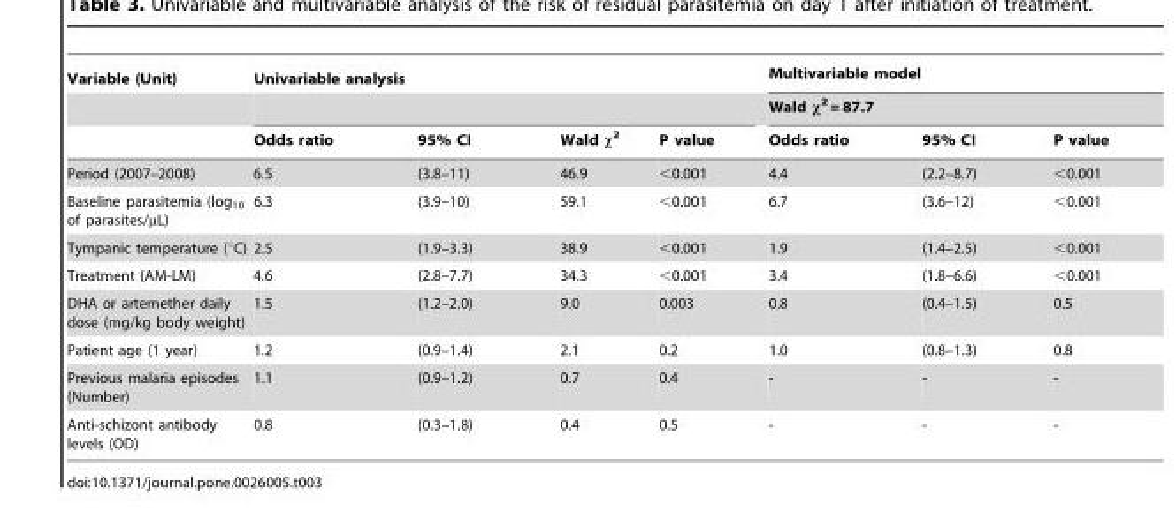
<table><thead><tr><td rowspan="3">Variable (Unit)</td><td colspan="4">Univariable analysis</td><td rowspan="2" colspan="3">Multivariable model Wald χ<sup>2</sup> = 87.7</td></tr><tr><td rowspan="2">Odds ratio</td><td rowspan="2">95% CI</td><td rowspan="2">Wald χ<sup>2</sup></td><td rowspan="2">P value</td></tr><tr><td>Odds ratio</td><td>95% CI</td><td>P value</td></tr></thead><tbody><tr><td>Period (2007–2008)</td><td>6.5</td><td>(3.8–11)</td><td>46.9</td><td>&lt;0.001</td><td>4.4</td><td>(2.2–8.7)</td><td>&lt;0.001</td></tr><tr><td>Baseline parasitemia (log<sub>10</sub> of parasites/µL)</td><td>6.3</td><td>(3.9–10)</td><td>59.1</td><td>&lt;0.001</td><td>6.7</td><td>(3.6–12)</td><td>&lt;0.001</td></tr><tr><td>Tympanic temperature (°C)</td><td>2.5</td><td>(1.9–3.3)</td><td>38.9</td><td>&lt;0.001</td><td>1.9</td><td>(1.4–2.5)</td><td>&lt;0.001</td></tr><tr><td>Treatment (AM-LM)</td><td>4.6</td><td>(2.8–7.7)</td><td>34.3</td><td>&lt;0.001</td><td>3.4</td><td>(1.8–6.6)</td><td>&lt;0.001</td></tr><tr><td>DHA or artemether daily dose (mg/kg body weight)</td><td>1.5</td><td>(1.2–2.0)</td><td>9.0</td><td>0.003</td><td>0.8</td><td>(0.4–1.5)</td><td>0.5</td></tr><tr><td>Patient age (1 year)</td><td>1.2</td><td>(0.9–1.4)</td><td>2.1</td><td>0.2</td><td>1.0</td><td>(0.8–1.3)</td><td>0.8</td></tr><tr><td>Previous malaria episodes (Number)</td><td>1.1</td><td>(0.9–1.2)</td><td>0.7</td><td>0.4</td><td>-</td><td>-</td><td>-</td></tr><tr><td>Anti-schizont antibody levels (OD)</td><td>0.8</td><td>(0.3–1.8)</td><td>0.4</td><td>0.5</td><td>-</td><td>-</td><td>-</td></tr></tbody></table>